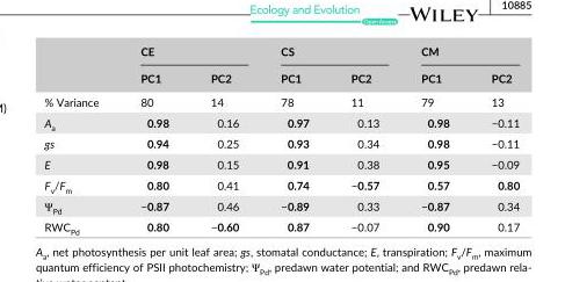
<table><thead><tr><td rowspan="2"></td><td colspan="2">CE</td><td colspan="2">CS</td><td colspan="2">CM</td></tr><tr><td>PC1</td><td>PC2</td><td>PC1</td><td>PC2</td><td>PC1</td><td>PC2</td></tr></thead><tbody><tr><td>% Variance</td><td>80</td><td>14</td><td>78</td><td>11</td><td>79</td><td>13</td></tr><tr><td>A<sub>a</sub></td><td>0.98</td><td>0.16</td><td>0.97</td><td>0.13</td><td>0.98</td><td>−0.11</td></tr><tr><td>gs</td><td>0.94</td><td>0.25</td><td>0.93</td><td>0.34</td><td>0.98</td><td>−0.11</td></tr><tr><td>E</td><td>0.98</td><td>0.15</td><td>0.91</td><td>0.38</td><td>0.95</td><td>−0.09</td></tr><tr><td>F<sub>v</sub>/F<sub>m</sub></td><td>0.80</td><td>0.41</td><td>0.74</td><td>−0.57</td><td>0.57</td><td>0.80</td></tr><tr><td>Ψ<sub>Pd</sub></td><td>−0.87</td><td>0.46</td><td>−0.89</td><td>0.33</td><td>−0.87</td><td>0.34</td></tr><tr><td>RWC<sub>Pd</sub></td><td>0.80</td><td>−0.60</td><td>0.87</td><td>−0.07</td><td>0.90</td><td>0.17</td></tr></tbody></table>